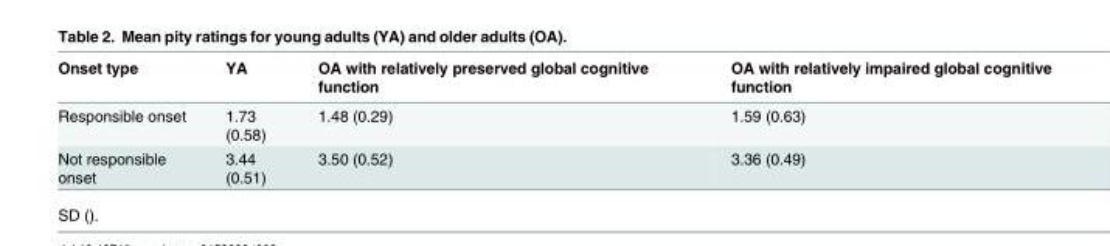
<table><thead><tr><td>Onset type</td><td>YA</td><td>OA with relatively preserved global cognitive function</td><td>OA with relatively impaired global cognitive function</td></tr></thead><tbody><tr><td>Responsible onset</td><td>1.73 (0.58)</td><td>1.48 (0.29)</td><td>1.59 (0.63)</td></tr><tr><td>Not responsible onset</td><td>3.44 (0.51)</td><td>3.50 (0.52)</td><td>3.36 (0.49)</td></tr></tbody></table>